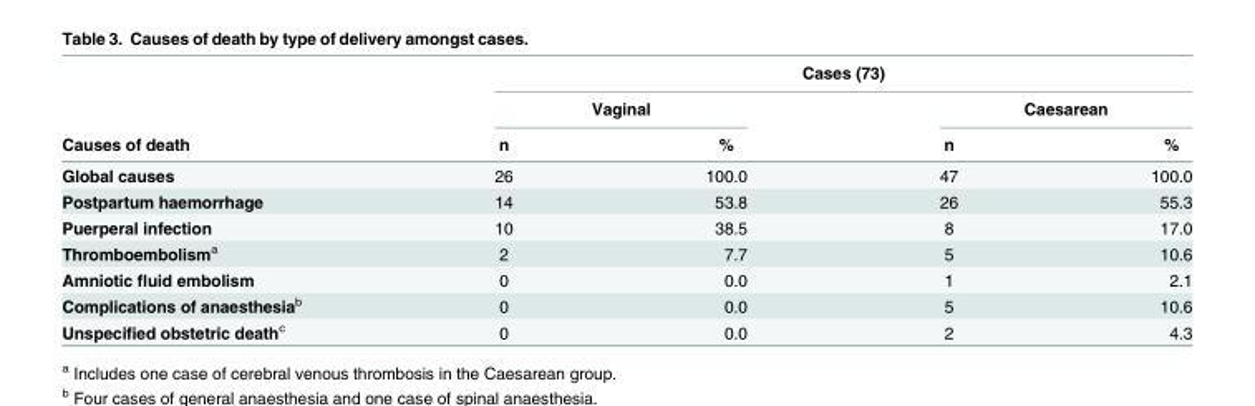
<table><thead><tr><td rowspan="3">Causes of death</td><td colspan="4">Cases (73)</td></tr><tr><td colspan="2">Vaginal</td><td colspan="2">Caesarean</td></tr><tr><td>n</td><td>%</td><td>n</td><td>%</td></tr></thead><tbody><tr><td>Global causes</td><td>26</td><td>100.0</td><td>47</td><td>100.0</td></tr><tr><td>Postpartum haemorrhage</td><td>14</td><td>53.8</td><td>26</td><td>55.3</td></tr><tr><td>Puerperal infection</td><td>10</td><td>38.5</td><td>8</td><td>17.0</td></tr><tr><td>Thromboembolism<sup>a</sup></td><td>2</td><td>7.7</td><td>5</td><td>10.6</td></tr><tr><td>Amniotic fluid embolism</td><td>0</td><td>0.0</td><td>1</td><td>2.1</td></tr><tr><td>Complications of anaesthesia<sup>b</sup></td><td>0</td><td>0.0</td><td>5</td><td>10.6</td></tr><tr><td>Unspecified obstetric death<sup>c</sup></td><td>0</td><td>0.0</td><td>2</td><td>4.3</td></tr></tbody></table>